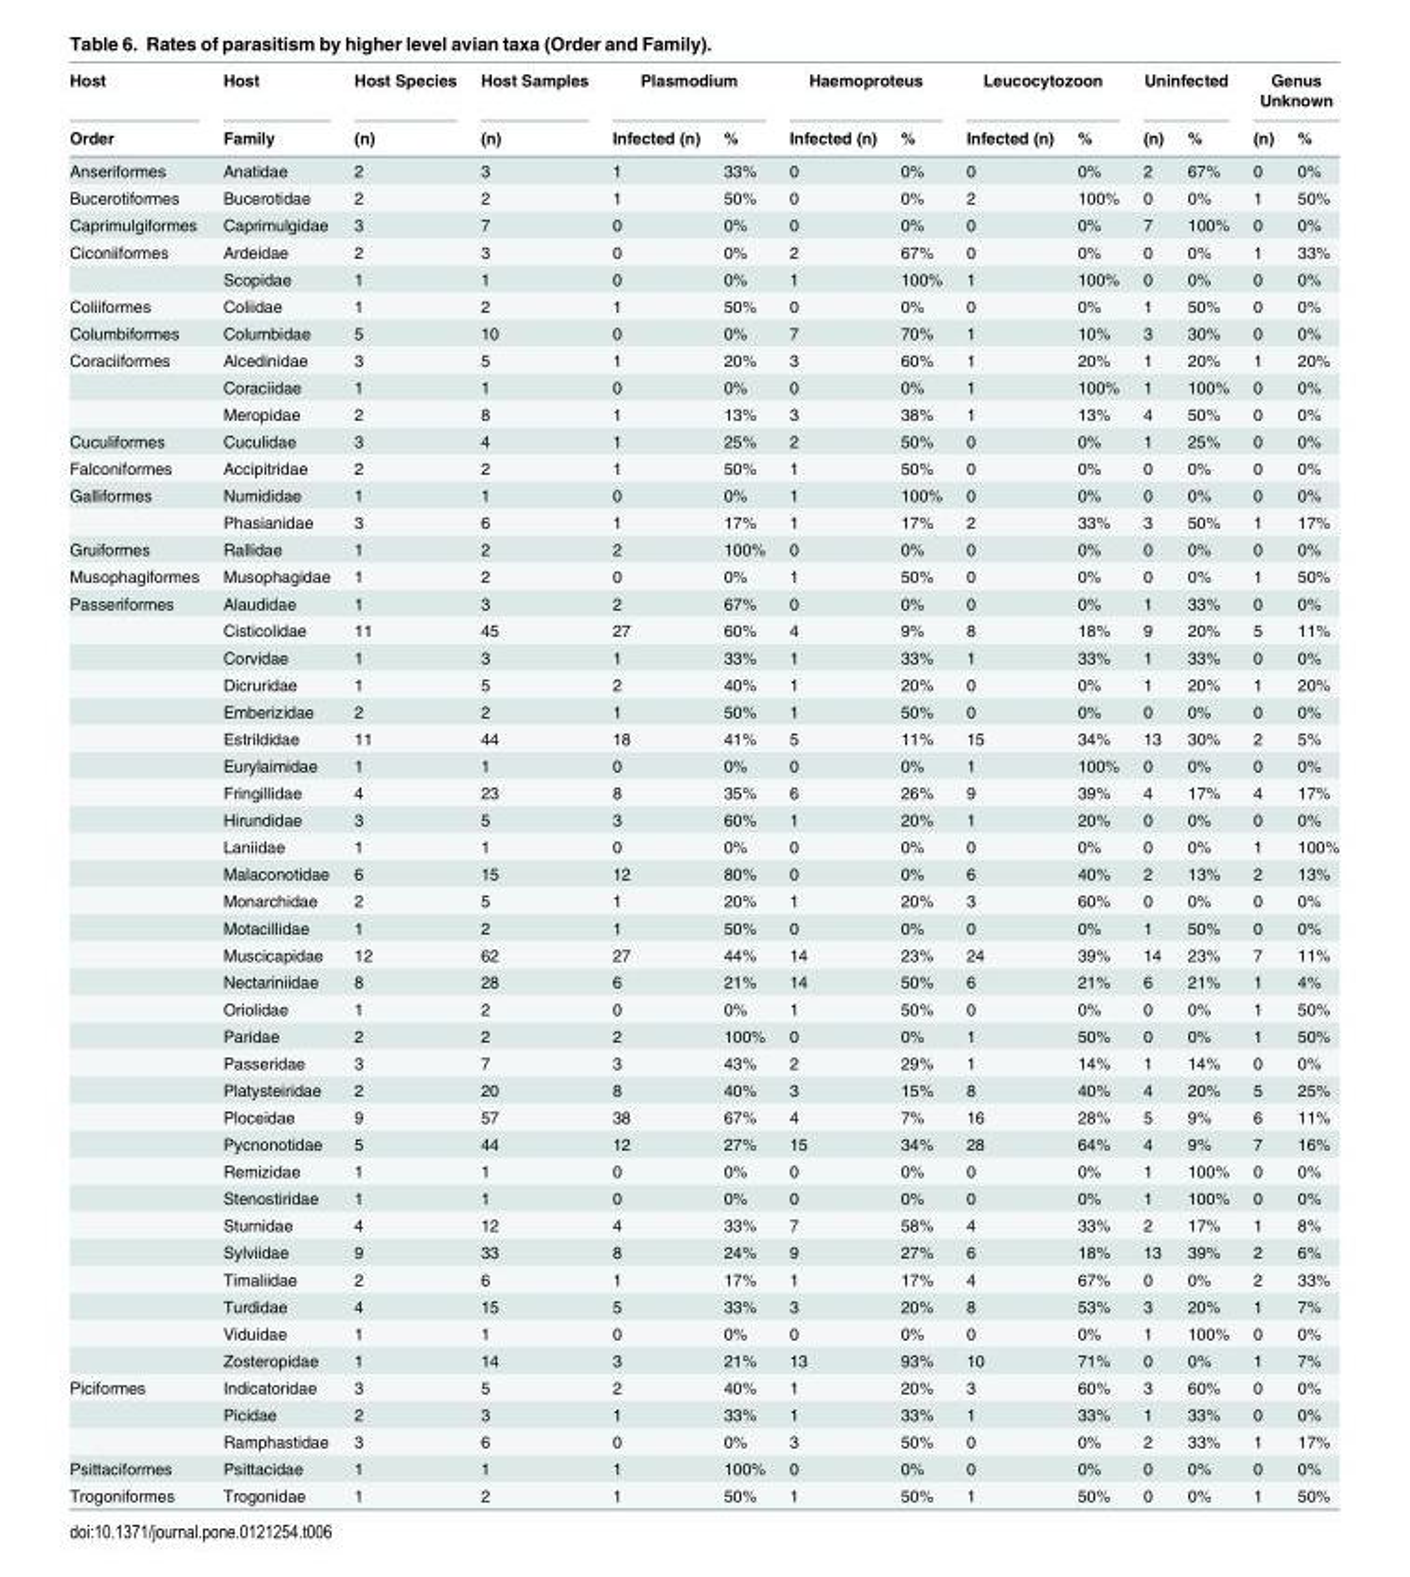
<table><thead><tr><td rowspan="2">Host Order</td><td rowspan="2">Host Family</td><td rowspan="2">Host Species (n)</td><td rowspan="2">Host Samples (n)</td><td colspan="2">Plasmodium</td><td colspan="2">Haemoproteus</td><td colspan="2">Leucocytozoon</td><td colspan="2">Uninfected</td><td colspan="2">Genus Unknown</td></tr><tr><td>Infected (n)</td><td>%</td><td>Infected (n)</td><td>%</td><td>Infected (n)</td><td>%</td><td>(n)</td><td>%</td><td>(n)</td><td>%</td></tr></thead><tbody><tr><td>Anseriformes</td><td>Anatidae</td><td>2</td><td>3</td><td>1</td><td>33%</td><td>0</td><td>0%</td><td>0</td><td>0%</td><td>2</td><td>67%</td><td>0</td><td>0%</td></tr><tr><td>Bucerotiformes</td><td>Bucerotidae</td><td>2</td><td>2</td><td>1</td><td>50%</td><td>0</td><td>0%</td><td>2</td><td>100%</td><td>0</td><td>0%</td><td>1</td><td>50%</td></tr><tr><td>Caprimulgiformes</td><td>Caprimulgidae</td><td>3</td><td>7</td><td>0</td><td>0%</td><td>0</td><td>0%</td><td>0</td><td>0%</td><td>7</td><td>100%</td><td>0</td><td>0%</td></tr><tr><td rowspan="2">Ciconiiformes</td><td>Ardeidae</td><td>2</td><td>3</td><td>0</td><td>0%</td><td>2</td><td>67%</td><td>0</td><td>0%</td><td>0</td><td>0%</td><td>1</td><td>33%</td></tr><tr><td>Scopidae</td><td>1</td><td>1</td><td>0</td><td>0%</td><td>1</td><td>100%</td><td>1</td><td>100%</td><td>0</td><td>0%</td><td>0</td><td>0%</td></tr><tr><td>Coliiformes</td><td>Coliidae</td><td>1</td><td>2</td><td>1</td><td>50%</td><td>0</td><td>0%</td><td>0</td><td>0%</td><td>1</td><td>50%</td><td>0</td><td>0%</td></tr><tr><td>Columbiformes</td><td>Columbidae</td><td>5</td><td>10</td><td>0</td><td>0%</td><td>7</td><td>70%</td><td>1</td><td>10%</td><td>3</td><td>30%</td><td>0</td><td>0%</td></tr><tr><td rowspan="3">Coraciiformes</td><td>Alcedinidae</td><td>3</td><td>5</td><td>1</td><td>20%</td><td>3</td><td>60%</td><td>1</td><td>20%</td><td>1</td><td>20%</td><td>1</td><td>20%</td></tr><tr><td>Coraciidae</td><td>1</td><td>1</td><td>0</td><td>0%</td><td>0</td><td>0%</td><td>1</td><td>100%</td><td>1</td><td>100%</td><td>0</td><td>0%</td></tr><tr><td>Meropidae</td><td>2</td><td>8</td><td>1</td><td>13%</td><td>3</td><td>38%</td><td>1</td><td>13%</td><td>4</td><td>50%</td><td>0</td><td>0%</td></tr><tr><td>Cuculiformes</td><td>Cuculidae</td><td>3</td><td>4</td><td>1</td><td>25%</td><td>2</td><td>50%</td><td>0</td><td>0%</td><td>1</td><td>25%</td><td>0</td><td>0%</td></tr><tr><td>Falconiformes</td><td>Accipitridae</td><td>2</td><td>2</td><td>1</td><td>50%</td><td>1</td><td>50%</td><td>0</td><td>0%</td><td>0</td><td>0%</td><td>0</td><td>0%</td></tr><tr><td rowspan="2">Galliformes</td><td>Numididae</td><td>1</td><td>1</td><td>0</td><td>0%</td><td>1</td><td>100%</td><td>0</td><td>0%</td><td>0</td><td>0%</td><td>0</td><td>0%</td></tr><tr><td>Phasianidae</td><td>3</td><td>6</td><td>1</td><td>17%</td><td>1</td><td>17%</td><td>2</td><td>33%</td><td>3</td><td>50%</td><td>1</td><td>17%</td></tr><tr><td>Gruiformes</td><td>Rallidae</td><td>1</td><td>2</td><td>2</td><td>100%</td><td>0</td><td>0%</td><td>0</td><td>0%</td><td>0</td><td>0%</td><td>0</td><td>0%</td></tr><tr><td>Musophagiformes</td><td>Musophagidae</td><td>1</td><td>2</td><td>0</td><td>0%</td><td>1</td><td>50%</td><td>0</td><td>0%</td><td>0</td><td>0%</td><td>1</td><td>50%</td></tr><tr><td rowspan="29">Passeriformes</td><td>Alaudidae</td><td>1</td><td>3</td><td>2</td><td>67%</td><td>0</td><td>0%</td><td>0</td><td>0%</td><td>1</td><td>33%</td><td>0</td><td>0%</td></tr><tr><td>Cisticolidae</td><td>11</td><td>45</td><td>27</td><td>60%</td><td>4</td><td>9%</td><td>8</td><td>18%</td><td>9</td><td>20%</td><td>5</td><td>11%</td></tr><tr><td>Corvidae</td><td>1</td><td>3</td><td>1</td><td>33%</td><td>1</td><td>33%</td><td>1</td><td>33%</td><td>1</td><td>33%</td><td>0</td><td>0%</td></tr><tr><td>Dicruridae</td><td>1</td><td>5</td><td>2</td><td>40%</td><td>1</td><td>20%</td><td>0</td><td>0%</td><td>1</td><td>20%</td><td>1</td><td>20%</td></tr><tr><td>Emberizidae</td><td>2</td><td>2</td><td>1</td><td>50%</td><td>1</td><td>50%</td><td>0</td><td>0%</td><td>0</td><td>0%</td><td>0</td><td>0%</td></tr><tr><td>Estrildidae</td><td>11</td><td>44</td><td>18</td><td>41%</td><td>5</td><td>11%</td><td>15</td><td>34%</td><td>13</td><td>30%</td><td>2</td><td>5%</td></tr><tr><td>Eurylaimidae</td><td>1</td><td>1</td><td>0</td><td>0%</td><td>0</td><td>0%</td><td>1</td><td>100%</td><td>0</td><td>0%</td><td>0</td><td>0%</td></tr><tr><td>Fringillidae</td><td>4</td><td>23</td><td>8</td><td>35%</td><td>6</td><td>26%</td><td>9</td><td>39%</td><td>4</td><td>17%</td><td>4</td><td>17%</td></tr><tr><td>Hirundidae</td><td>3</td><td>5</td><td>3</td><td>60%</td><td>1</td><td>20%</td><td>1</td><td>20%</td><td>0</td><td>0%</td><td>0</td><td>0%</td></tr><tr><td>Laniidae</td><td>1</td><td>1</td><td>0</td><td>0%</td><td>0</td><td>0%</td><td>0</td><td>0%</td><td>0</td><td>0%</td><td>1</td><td>100%</td></tr><tr><td>Malaconotidae</td><td>6</td><td>15</td><td>12</td><td>80%</td><td>0</td><td>0%</td><td>6</td><td>40%</td><td>2</td><td>13%</td><td>2</td><td>13%</td></tr><tr><td>Monarchidae</td><td>2</td><td>5</td><td>1</td><td>20%</td><td>1</td><td>20%</td><td>3</td><td>60%</td><td>0</td><td>0%</td><td>0</td><td>0%</td></tr><tr><td>Motacillidae</td><td>1</td><td>2</td><td>1</td><td>50%</td><td>0</td><td>0%</td><td>0</td><td>0%</td><td>1</td><td>50%</td><td>0</td><td>0%</td></tr><tr><td>Muscicapidae</td><td>12</td><td>62</td><td>27</td><td>44%</td><td>14</td><td>23%</td><td>24</td><td>39%</td><td>14</td><td>23%</td><td>7</td><td>11%</td></tr><tr><td>Nectariniidae</td><td>8</td><td>28</td><td>6</td><td>21%</td><td>14</td><td>50%</td><td>6</td><td>21%</td><td>6</td><td>21%</td><td>1</td><td>4%</td></tr><tr><td>Oriolidae</td><td>1</td><td>2</td><td>0</td><td>0%</td><td>1</td><td>50%</td><td>0</td><td>0%</td><td>0</td><td>0%</td><td>1</td><td>50%</td></tr><tr><td>Paridae</td><td>2</td><td>2</td><td>2</td><td>100%</td><td>0</td><td>0%</td><td>1</td><td>50%</td><td>0</td><td>0%</td><td>1</td><td>50%</td></tr><tr><td>Passeridae</td><td>3</td><td>7</td><td>3</td><td>43%</td><td>2</td><td>29%</td><td>1</td><td>14%</td><td>1</td><td>14%</td><td>0</td><td>0%</td></tr><tr><td>Platysteiridae</td><td>2</td><td>20</td><td>8</td><td>40%</td><td>3</td><td>15%</td><td>8</td><td>40%</td><td>4</td><td>20%</td><td>5</td><td>25%</td></tr><tr><td>Ploceidae</td><td>9</td><td>57</td><td>38</td><td>67%</td><td>4</td><td>7%</td><td>16</td><td>28%</td><td>5</td><td>9%</td><td>6</td><td>11%</td></tr><tr><td>Pycnonotidae</td><td>5</td><td>44</td><td>12</td><td>27%</td><td>15</td><td>34%</td><td>28</td><td>64%</td><td>4</td><td>9%</td><td>7</td><td>16%</td></tr><tr><td>Remizidae</td><td>1</td><td>1</td><td>0</td><td>0%</td><td>0</td><td>0%</td><td>0</td><td>0%</td><td>1</td><td>100%</td><td>0</td><td>0%</td></tr><tr><td>Stenostiridae</td><td>1</td><td>1</td><td>0</td><td>0%</td><td>0</td><td>0%</td><td>0</td><td>0%</td><td>1</td><td>100%</td><td>0</td><td>0%</td></tr><tr><td>Sturnidae</td><td>4</td><td>12</td><td>4</td><td>33%</td><td>7</td><td>58%</td><td>4</td><td>33%</td><td>2</td><td>17%</td><td>1</td><td>8%</td></tr><tr><td>Sylviidae</td><td>9</td><td>33</td><td>8</td><td>24%</td><td>9</td><td>27%</td><td>6</td><td>18%</td><td>13</td><td>39%</td><td>2</td><td>6%</td></tr><tr><td>Timaliidae</td><td>2</td><td>6</td><td>1</td><td>17%</td><td>1</td><td>17%</td><td>4</td><td>67%</td><td>0</td><td>0%</td><td>2</td><td>33%</td></tr><tr><td>Turdidae</td><td>4</td><td>15</td><td>5</td><td>33%</td><td>3</td><td>20%</td><td>8</td><td>53%</td><td>3</td><td>20%</td><td>1</td><td>7%</td></tr><tr><td>Viduidae</td><td>1</td><td>1</td><td>0</td><td>0%</td><td>0</td><td>0%</td><td>0</td><td>0%</td><td>1</td><td>100%</td><td>0</td><td>0%</td></tr><tr><td>Zosteropidae</td><td>1</td><td>14</td><td>3</td><td>21%</td><td>13</td><td>93%</td><td>10</td><td>71%</td><td>0</td><td>0%</td><td>1</td><td>7%</td></tr><tr><td rowspan="3">Piciformes</td><td>Indicatoridae</td><td>3</td><td>5</td><td>2</td><td>40%</td><td>1</td><td>20%</td><td>3</td><td>60%</td><td>3</td><td>60%</td><td>0</td><td>0%</td></tr><tr><td>Picidae</td><td>2</td><td>3</td><td>1</td><td>33%</td><td>1</td><td>33%</td><td>1</td><td>33%</td><td>1</td><td>33%</td><td>0</td><td>0%</td></tr><tr><td>Ramphastidae</td><td>3</td><td>6</td><td>0</td><td>0%</td><td>3</td><td>50%</td><td>0</td><td>0%</td><td>2</td><td>33%</td><td>1</td><td>17%</td></tr><tr><td>Psittaciformes</td><td>Psittacidae</td><td>1</td><td>1</td><td>1</td><td>100%</td><td>0</td><td>0%</td><td>0</td><td>0%</td><td>0</td><td>0%</td><td>0</td><td>0%</td></tr><tr><td>Trogoniformes</td><td>Trogonidae</td><td>1</td><td>2</td><td>1</td><td>50%</td><td>1</td><td>50%</td><td>1</td><td>50%</td><td>0</td><td>0%</td><td>1</td><td>50%</td></tr></tbody></table>